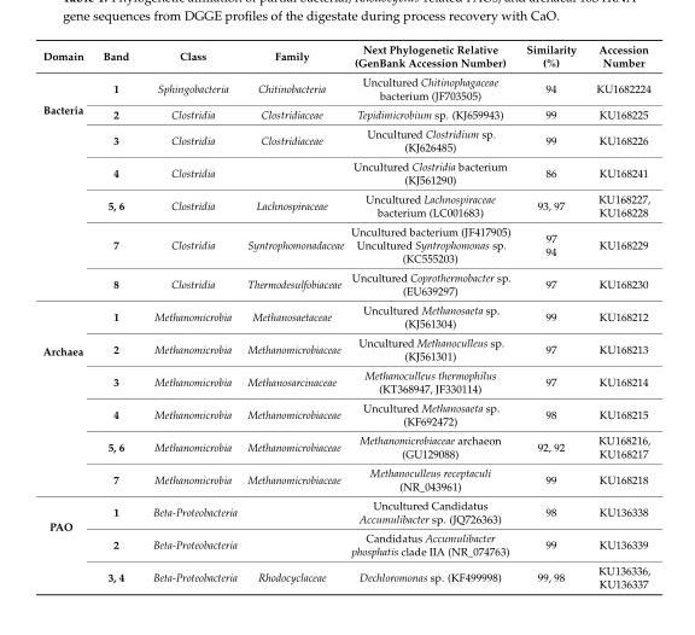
<table><thead><tr><td>Domain</td><td>Band</td><td>Class</td><td>Family</td><td>Next Phylogenetic Relative (GenBank Accession Number)</td><td>Similarity (%)</td><td>Accession Number</td></tr></thead><tbody><tr><td rowspan="7">Bacteria</td><td>1</td><td>Sphingobacteria</td><td>Chitinobacteria</td><td>Uncultured Chitinophagaceae bacterium (JF703505)</td><td>94</td><td>KU1682224</td></tr><tr><td>2</td><td>Clostridia</td><td>Clostridiaceae</td><td>Tepidimicrobium sp. (KJ659943)</td><td>99</td><td>KU168225</td></tr><tr><td>3</td><td>Clostridia</td><td>Clostridiaceae</td><td>Uncultured Clostridium sp. (KJ626485)</td><td>99</td><td>KU168226</td></tr><tr><td>4</td><td>Clostridia</td><td></td><td>Uncultured Clostridia bacterium (KJ561290)</td><td>86</td><td>KU168241</td></tr><tr><td>5, 6</td><td>Clostridia</td><td>Lachnospiraceae</td><td>Uncultured Lachnospiraceae bacterium (LC001683)</td><td>93, 97</td><td>KU168227, KU168228</td></tr><tr><td>7</td><td>Clostridia</td><td>Syntrophomonadaceae</td><td>Uncultured bacterium (JF417905) Uncultured Syntrophomonas sp. (KC555203)</td><td>97 94</td><td>KU168229</td></tr><tr><td>8</td><td>Clostridia</td><td>Thermodesulfobiaceae</td><td>Uncultured Coprothermobacter sp. (EU639297)</td><td>97</td><td>KU168230</td></tr><tr><td rowspan="6">Archaea</td><td>1</td><td>Methanomicrobia</td><td>Methanosaetaceae</td><td>Uncultured Methanosaeta sp. (KJ561304)</td><td>99</td><td>KU168212</td></tr><tr><td>2</td><td>Methanomicrobia</td><td>Methanomicrobiaceae</td><td>Uncultured Methanoculleus sp. (KJ561301)</td><td>97</td><td>KU168213</td></tr><tr><td>3</td><td>Methanomicrobia</td><td>Methanosarcinaceae</td><td>Methanoculleus thermophilus (KT368947, JF330114)</td><td>97</td><td>KU168214</td></tr><tr><td>4</td><td>Methanomicrobia</td><td>Methanomicrobiaceae</td><td>Uncultured Methanosaeta sp. (KF692472)</td><td>98</td><td>KU168215</td></tr><tr><td>5, 6</td><td>Methanomicrobia</td><td>Methanomicrobiaceae</td><td>Methanomicrobiaceae archaeon (GU129088)</td><td>92, 92</td><td>KU168216, KU168217</td></tr><tr><td>7</td><td>Methanomicrobia</td><td>Methanomicrobiaceae</td><td>Methanoculleus receptaculi (NR_043961)</td><td>99</td><td>KU168218</td></tr><tr><td rowspan="3">PAO</td><td>1</td><td>Beta-Proteobacteria</td><td></td><td>Uncultured Candidatus Accumulibacter sp. (JQ726363)</td><td>98</td><td>KU136338</td></tr><tr><td>2</td><td>Beta-Proteobacteria</td><td></td><td>Candidatus Accumulibacter phosphatis clade IIA (NR_074763)</td><td>99</td><td>KU136339</td></tr><tr><td>3, 4</td><td>Beta-Proteobacteria</td><td>Rhodocyclaceae</td><td>Dechloromonas sp. (KF499998)</td><td>99, 98</td><td>KU136336, KU136337</td></tr></tbody></table>